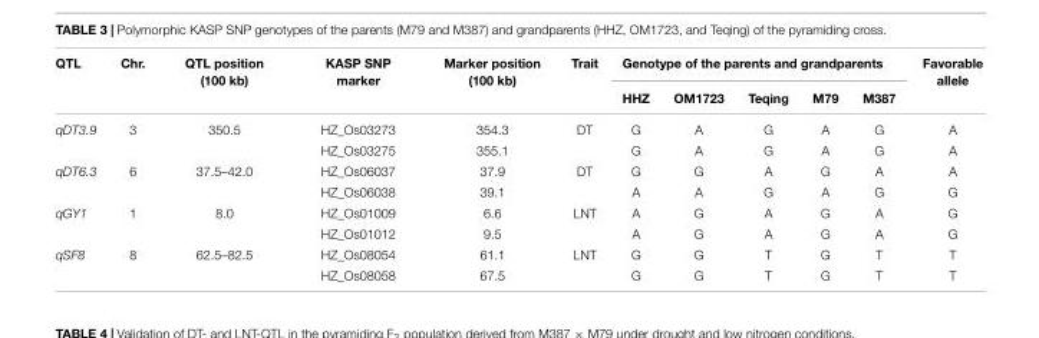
<table><thead><tr><td rowspan="2">QTL</td><td rowspan="2">Chr.</td><td rowspan="2">QTL position (100 kb)</td><td rowspan="2">KASP SNP marker</td><td rowspan="2">Marker position (100 kb)</td><td rowspan="2">Trait</td><td colspan="5">Genotype of the parents and grandparents</td><td rowspan="2">Favorable allele</td></tr><tr><td>HHZ</td><td>OM1723</td><td>Teqing</td><td>M79</td><td>M387</td></tr></thead><tbody><tr><td rowspan="2">qDT3.9</td><td>3</td><td>350.5</td><td>HZ_Os03273</td><td>354.3</td><td>DT</td><td>G</td><td>A</td><td>G</td><td>A</td><td>G</td><td>A</td></tr><tr><td></td><td></td><td>HZ_Os03275</td><td>355.1</td><td></td><td>G</td><td>A</td><td>G</td><td>A</td><td>G</td><td>A</td></tr><tr><td rowspan="2">qDT6.3</td><td>6</td><td>37.5–42.0</td><td>HZ_Os06037</td><td>37.9</td><td>DT</td><td>G</td><td>G</td><td>A</td><td>G</td><td>A</td><td>A</td></tr><tr><td></td><td></td><td>HZ_Os06038</td><td>39.1</td><td></td><td>A</td><td>A</td><td>G</td><td>A</td><td>G</td><td>G</td></tr><tr><td rowspan="2">qGY1</td><td>1</td><td>8.0</td><td>HZ_Os01009</td><td>6.6</td><td>LNT</td><td>A</td><td>G</td><td>A</td><td>G</td><td>A</td><td>G</td></tr><tr><td></td><td></td><td>HZ_Os01012</td><td>9.5</td><td></td><td>A</td><td>G</td><td>A</td><td>G</td><td>A</td><td>G</td></tr><tr><td rowspan="2">qSF8</td><td>8</td><td>62.5–82.5</td><td>HZ_Os08054</td><td>61.1</td><td>LNT</td><td>G</td><td>G</td><td>T</td><td>G</td><td>T</td><td>T</td></tr><tr><td></td><td></td><td>HZ_Os08058</td><td>67.5</td><td></td><td>G</td><td>G</td><td>T</td><td>G</td><td>T</td><td>T</td></tr></tbody></table>